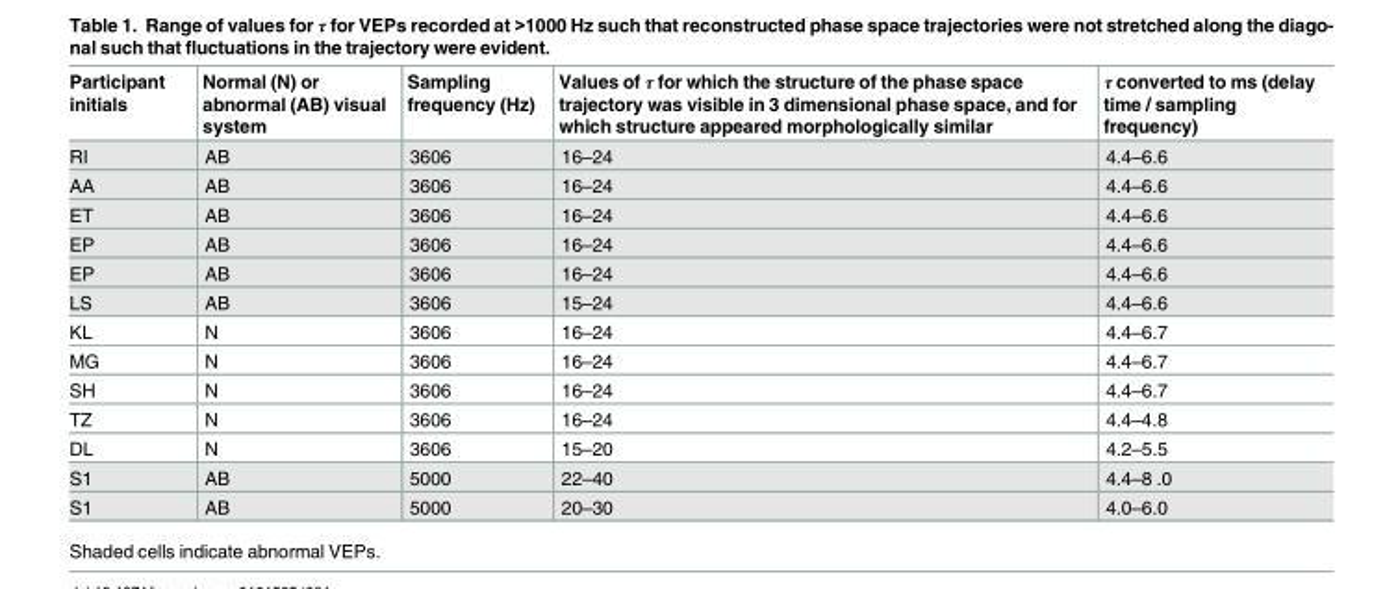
<table><thead><tr><td>Participant initials</td><td>Normal (N) or abnormal (AB) visual system</td><td>Sampling frequency (Hz)</td><td>Values of τ for which the structure of the phase space trajectory was visible in 3 dimensional phase space, and for which structure appeared morphologically similar</td><td>τ converted to ms (delay time / sampling frequency)</td></tr></thead><tbody><tr><td>RI</td><td>AB</td><td>3606</td><td>16–24</td><td>4.4–6.6</td></tr><tr><td>AA</td><td>AB</td><td>3606</td><td>16–24</td><td>4.4–6.6</td></tr><tr><td>ET</td><td>AB</td><td>3606</td><td>16–24</td><td>4.4–6.6</td></tr><tr><td>EP</td><td>AB</td><td>3606</td><td>16–24</td><td>4.4–6.6</td></tr><tr><td>EP</td><td>AB</td><td>3606</td><td>16–24</td><td>4.4–6.6</td></tr><tr><td>LS</td><td>AB</td><td>3606</td><td>15–24</td><td>4.4–6.6</td></tr><tr><td>KL</td><td>N</td><td>3606</td><td>16–24</td><td>4.4–6.7</td></tr><tr><td>MG</td><td>N</td><td>3606</td><td>16–24</td><td>4.4–6.7</td></tr><tr><td>SH</td><td>N</td><td>3606</td><td>16–24</td><td>4.4–6.7</td></tr><tr><td>TZ</td><td>N</td><td>3606</td><td>16–24</td><td>4.4–4.8</td></tr><tr><td>DL</td><td>N</td><td>3606</td><td>15–20</td><td>4.2–5.5</td></tr><tr><td>S1</td><td>AB</td><td>5000</td><td>22–40</td><td>4.4–8 .0</td></tr><tr><td>S1</td><td>AB</td><td>5000</td><td>20–30</td><td>4.0–6.0</td></tr></tbody></table>